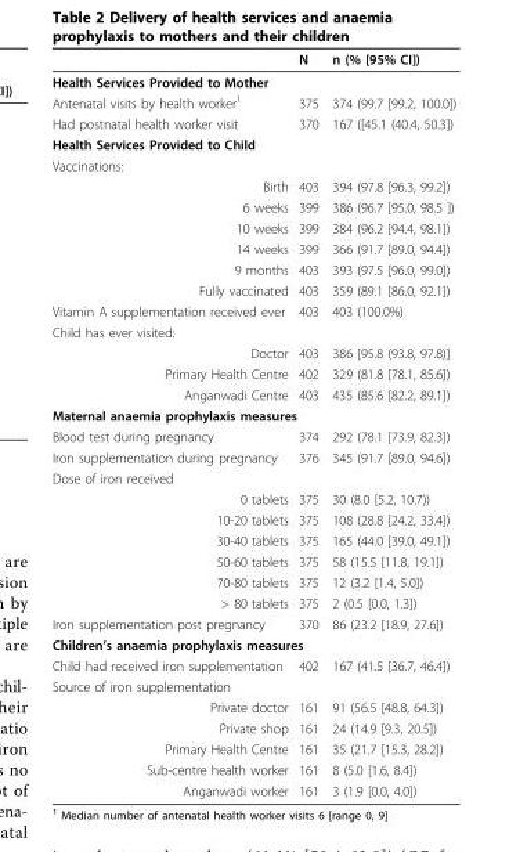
<table><thead><tr><td></td><td>N</td><td>n (% [95% CI])</td></tr></thead><tbody><tr><td colspan="3">Health Services Provided to Mother</td></tr><tr><td>Antenatal visits by health worker<sup>1</sup></td><td>375</td><td>374 (99.7 [99.2, 100.0])</td></tr><tr><td>Had postnatal health worker visit</td><td>370</td><td>167 ([45.1 (40.4, 50.3])</td></tr><tr><td colspan="3">Health Services Provided to Child</td></tr><tr><td colspan="3">Vaccinations:</td></tr><tr><td>Birth</td><td>403</td><td>394 (97.8 [96.3, 99.2])</td></tr><tr><td>6 weeks</td><td>399</td><td>386 (96.7 [95.0, 98.5 ])</td></tr><tr><td>10 weeks</td><td>399</td><td>384 (96.2 [94.4, 98.1])</td></tr><tr><td>14 weeks</td><td>399</td><td>366 (91.7 [89.0, 94.4])</td></tr><tr><td>9 months</td><td>403</td><td>393 (97.5 [96.0, 99.0])</td></tr><tr><td>Fully vaccinated</td><td>403</td><td>359 (89.1 [86.0, 92.1])</td></tr><tr><td>Vitamin A supplementation received ever</td><td>403</td><td>403 (100.0%)</td></tr><tr><td colspan="3">Child has ever visited:</td></tr><tr><td>Doctor</td><td>403</td><td>386 [95.8 (93.8, 97.8)]</td></tr><tr><td>Primary Health Centre</td><td>402</td><td>329 (81.8 [78.1, 85.6])</td></tr><tr><td>Anganwadi Centre</td><td>403</td><td>435 (85.6 [82.2, 89.1])</td></tr><tr><td colspan="3">Maternal anaemia prophylaxis measures</td></tr><tr><td>Blood test during pregnancy</td><td>374</td><td>292 (78.1 [73.9, 82.3])</td></tr><tr><td>Iron supplementation during pregnancy</td><td>376</td><td>345 (91.7 [89.0, 94.6])</td></tr><tr><td colspan="3">Dose of iron received</td></tr><tr><td>0 tablets</td><td>375</td><td>30 (8.0 [5.2, 10.7))</td></tr><tr><td>10-20 tablets</td><td>375</td><td>108 (28.8 [24.2, 33.4])</td></tr><tr><td>30-40 tablets</td><td>375</td><td>165 (44.0 [39.0, 49.1])</td></tr><tr><td>50-60 tablets</td><td>375</td><td>58 (15.5 [11.8, 19.1])</td></tr><tr><td>70-80 tablets</td><td>375</td><td>12 (3.2 [1.4, 5.0])</td></tr><tr><td>&gt; 80 tablets</td><td>375</td><td>2 (0.5 [0.0, 1.3])</td></tr><tr><td>Iron supplementation post pregnancy</td><td>370</td><td>86 (23.2 [18.9, 27.6])</td></tr><tr><td colspan="3">Children’s anaemia prophylaxis measures</td></tr><tr><td>Child had received iron supplementation</td><td>402</td><td>167 (41.5 [36.7, 46.4])</td></tr><tr><td colspan="3">Source of iron supplementation</td></tr><tr><td>Private doctor</td><td>161</td><td>91 (56.5 [48.8, 64.3])</td></tr><tr><td>Private shop</td><td>161</td><td>24 (14.9 [9.3, 20.5])</td></tr><tr><td>Primary Health Centre</td><td>161</td><td>35 (21.7 [15.3, 28.2])</td></tr><tr><td>Sub-centre health worker</td><td>161</td><td>8 (5.0 [1.6, 8.4])</td></tr><tr><td>Anganwadi worker</td><td>161</td><td>3 (1.9 [0.0, 4.0])</td></tr></tbody></table>